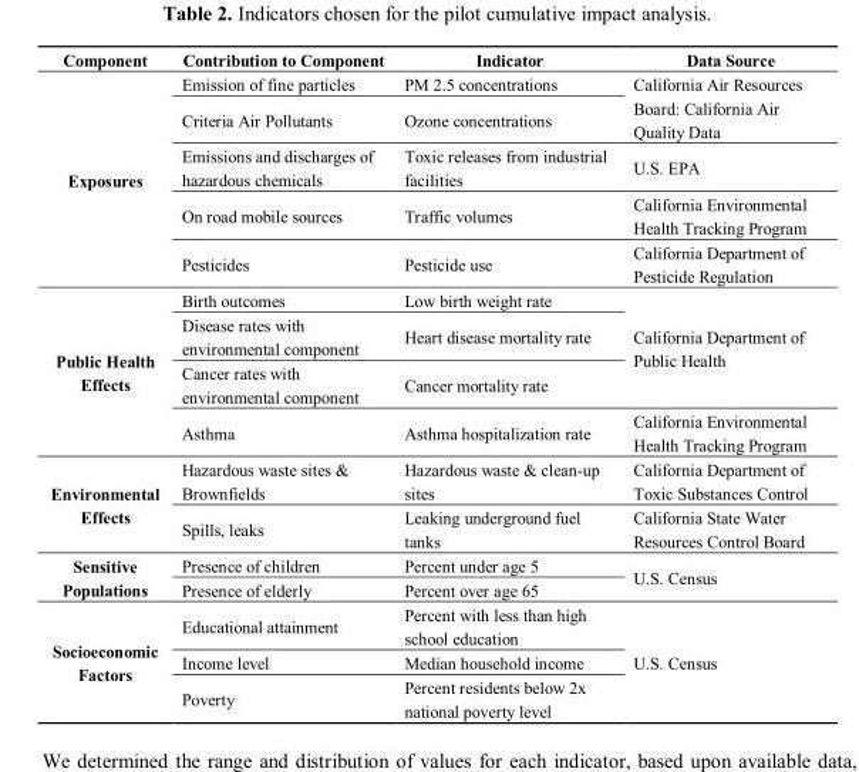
<table><thead><tr><td>Component</td><td>Contribution to Component</td><td>Indicator</td><td>Data Source</td></tr></thead><tbody><tr><td rowspan="5">Exposures</td><td>Emission of fine particles</td><td>PM 2.5 concentrations</td><td rowspan="2">California Air Resources Board: California Air Quality Data</td></tr><tr><td>Criteria Air Pollutants</td><td>Ozone concentrations</td></tr><tr><td>Emissions and discharges of hazardous chemicals</td><td>Toxic releases from industrial facilities</td><td>U.S. EPA</td></tr><tr><td>On road mobile sources</td><td>Traffic volumes</td><td>California Environmental Health Tracking Program</td></tr><tr><td>Pesticides</td><td>Pesticide use</td><td>California Department of Pesticide Regulation</td></tr><tr><td rowspan="4">Public Health Effects</td><td>Birth outcomes</td><td>Low birth weight rate</td><td rowspan="3">California Department of Public Health</td></tr><tr><td>Disease rates with environmental component</td><td>Heart disease mortality rate</td></tr><tr><td>Cancer rates with environmental component</td><td>Cancer mortality rate</td></tr><tr><td>Asthma</td><td>Asthma hospitalization rate</td><td>California Environmental Health Tracking Program</td></tr><tr><td rowspan="2">Environmental Effects</td><td>Hazardous waste sites &amp; Brownfields</td><td>Hazardous waste &amp; clean-up sites</td><td>California Department of Toxic Substances Control</td></tr><tr><td>Spills, leaks</td><td>Leaking underground fuel tanks</td><td>California State Water Resources Control Board</td></tr><tr><td rowspan="2">Sensitive Populations</td><td>Presence of children</td><td>Percent under age 5</td><td rowspan="2">U.S. Census</td></tr><tr><td>Presence of elderly</td><td>Percent over age 65</td></tr><tr><td rowspan="3">Socioeconomic Factors</td><td>Educational attainment</td><td>Percent with less than high school education</td><td rowspan="3">U.S. Census</td></tr><tr><td>Income level</td><td>Median household income</td></tr><tr><td>Poverty</td><td>Percent residents below 2x national poverty level</td></tr></tbody></table>